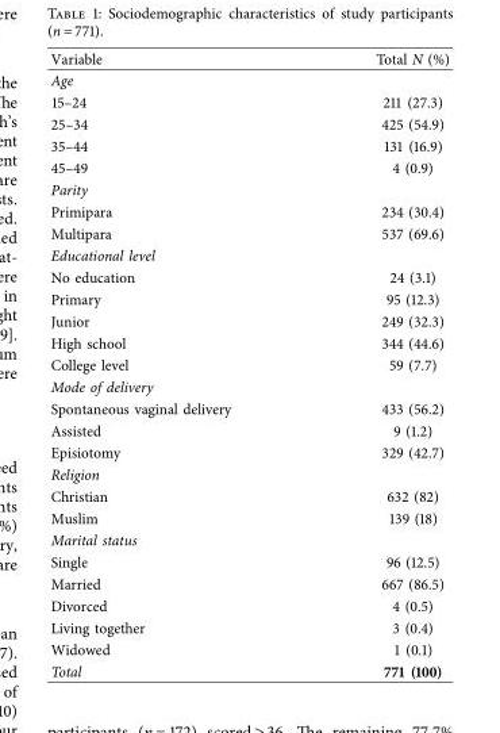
<table><thead><tr><td>Variable</td><td>Total N (%)</td></tr></thead><tbody><tr><td colspan="2">Age</td></tr><tr><td>15–24</td><td>211 (27.3)</td></tr><tr><td>25–34</td><td>425 (54.9)</td></tr><tr><td>35–44</td><td>131 (16.9)</td></tr><tr><td>45–49</td><td>4 (0.9)</td></tr><tr><td colspan="2">Parity</td></tr><tr><td>Primipara</td><td>234 (30.4)</td></tr><tr><td>Multipara</td><td>537 (69.6)</td></tr><tr><td colspan="2">Educational level</td></tr><tr><td>No education</td><td>24 (3.1)</td></tr><tr><td>Primary</td><td>95 (12.3)</td></tr><tr><td>Junior</td><td>249 (32.3)</td></tr><tr><td>High school</td><td>344 (44.6)</td></tr><tr><td>College level</td><td>59 (7.7)</td></tr><tr><td colspan="2">Mode of delivery</td></tr><tr><td>Spontaneous vaginal delivery</td><td>433 (56.2)</td></tr><tr><td>Assisted</td><td>9 (1.2)</td></tr><tr><td>Episiotomy</td><td>329 (42.7)</td></tr><tr><td colspan="2">Religion</td></tr><tr><td>Christian</td><td>632 (82)</td></tr><tr><td>Muslim</td><td>139 (18)</td></tr><tr><td colspan="2">Marital status</td></tr><tr><td>Single</td><td>96 (12.5)</td></tr><tr><td>Married</td><td>667 (86.5)</td></tr><tr><td>Divorced</td><td>4 (0.5)</td></tr><tr><td>Living together</td><td>3 (0.4)</td></tr><tr><td>Widowed</td><td>1 (0.1)</td></tr><tr><td>Total</td><td>771 (100)</td></tr></tbody></table>